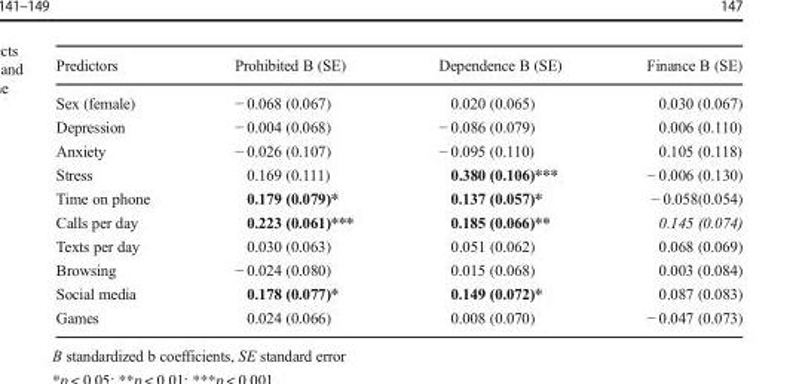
<table><thead><tr><td>Predictors</td><td>Prohibited B (SE)</td><td>Dependence B (SE)</td><td>Finance B (SE)</td></tr></thead><tbody><tr><td>Sex (female)</td><td>− 0.068 (0.067)</td><td>0.020 (0.065)</td><td>0.030 (0.067)</td></tr><tr><td>Depression</td><td>− 0.004 (0.068)</td><td>− 0.086 (0.079)</td><td>0.006 (0.110)</td></tr><tr><td>Anxiety</td><td>− 0.026 (0.107)</td><td>− 0.095 (0.110)</td><td>0.105 (0.118)</td></tr><tr><td>Stress</td><td>0.169 (0.111)</td><td>0.380 (0.106)***</td><td>− 0.006 (0.130)</td></tr><tr><td>Time on phone</td><td>0.179 (0.079)*</td><td>0.137 (0.057)*</td><td>− 0.058(0.054)</td></tr><tr><td>Calls per day</td><td>0.223 (0.061)***</td><td>0.185 (0.066)**</td><td>0.145 (0.074)</td></tr><tr><td>Texts per day</td><td>0.030 (0.063)</td><td>0.051 (0.062)</td><td>0.068 (0.069)</td></tr><tr><td>Browsing</td><td>− 0.024 (0.080)</td><td>0.015 (0.068)</td><td>0.003 (0.084)</td></tr><tr><td>Social media</td><td>0.178 (0.077)*</td><td>0.149 (0.072)*</td><td>0.087 (0.083)</td></tr><tr><td>Games</td><td>0.024 (0.066)</td><td>0.008 (0.070)</td><td>− 0.047 (0.073)</td></tr></tbody></table>